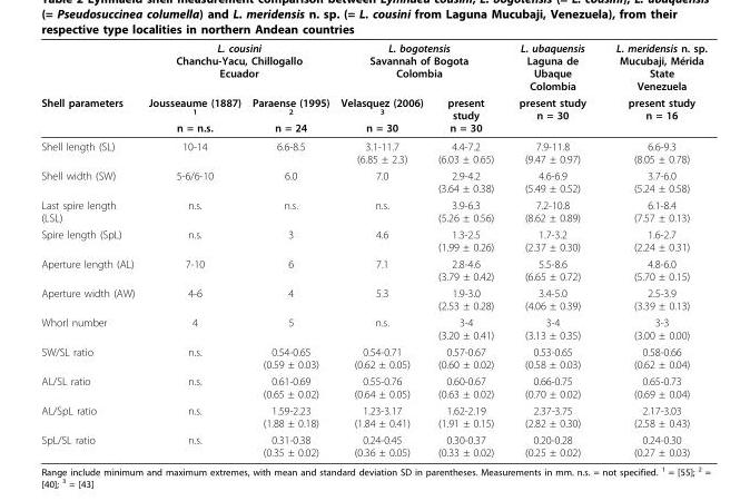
<table><thead><tr><td rowspan="2">Shell parameters</td><td colspan="2">L. cousini Chanchu-Yacu, Chillogallo Ecuador</td><td colspan="2">L. bogotensis Savannah of Bogota Colombia</td><td rowspan="2">L. ubaquensis Laguna de Ubaque Colombia present study n = 30</td><td rowspan="2">L. meridensis n. sp. Mucubaji, Mérida State Venezuela present study n = 16</td></tr><tr><td>Jousseaume (1887) <sup>1</sup> n = n.s.</td><td>Paraense (1995) <sup>2</sup> n = 24</td><td>Velasquez (2006) <sup>3</sup> n = 30</td><td>present study n = 30</td></tr></thead><tbody><tr><td>Shell length (SL)</td><td>10-14</td><td>6.6-8.5</td><td>3.1-11.7 (6.85 ± 2.3)</td><td>4.4-7.2 (6.03 ± 0.65)</td><td>7.9-11.8 (9.47 ± 0.97)</td><td>6.6-9.3 (8.05 ± 0.78)</td></tr><tr><td>Shell width (SW)</td><td>5-6/6-10</td><td>6.0</td><td>7.0</td><td>2.9-4.2 (3.64 ± 0.38)</td><td>4.6-6.9 (5.49 ± 0.52)</td><td>3.7-6.0 (5.24 ± 0.58)</td></tr><tr><td>Last spire length (LSL)</td><td>n.s.</td><td>n.s.</td><td>n.s.</td><td>3.9-6.3 (5.26 ± 0.56)</td><td>7.2-10.8 (8.62 ± 0.89)</td><td>6.1-8.4 (7.57 ± 0.13)</td></tr><tr><td>Spire length (SpL)</td><td>n.s.</td><td>3</td><td>4.6</td><td>1.3-2.5 (1.99 ± 0.26)</td><td>1.7-3.2 (2.37 ± 0.30)</td><td>1.6-2.7 (2.24 ± 0.31)</td></tr><tr><td>Aperture length (AL)</td><td>7-10</td><td>6</td><td>7.1</td><td>2.8-4.6 (3.79 ± 0.42)</td><td>5.5-8.6 (6.65 ± 0.72)</td><td>4.8-6.0 (5.70 ± 0.15)</td></tr><tr><td>Aperture width (AW)</td><td>4-6</td><td>4</td><td>5.3</td><td>1.9-3.0 (2.53 ± 0.28)</td><td>3.4-5.0 (4.06 ± 0.39)</td><td>2.5-3.9 (3.39 ± 0.13)</td></tr><tr><td>Whorl number</td><td>4</td><td>5</td><td>n.s.</td><td>3-4 (3.20 ± 0.41)</td><td>3-4 (3.13 ± 0.35)</td><td>3-3 (3.00 ± 0.00)</td></tr><tr><td>SW/SL ratio</td><td>n.s.</td><td>0.54-0.65 (0.59 ± 0.03)</td><td>0.54-0.71 (0.62 ± 0.05)</td><td>0.57-0.67 (0.60 ± 0.02)</td><td>0.53-0.65 (0.58 ± 0.03)</td><td>0.58-0.66 (0.62 ± 0.04)</td></tr><tr><td>AL/SL ratio</td><td>n.s.</td><td>0.61-0.69 (0.65 ± 0.02)</td><td>0.55-0.76 (0.64 ± 0.05)</td><td>0.60-0.67 (0.63 ± 0.02)</td><td>0.66-0.75 (0.70 ± 0.02)</td><td>0.65-0.73 (0.69 ± 0.04)</td></tr><tr><td>AL/SpL ratio</td><td>n.s.</td><td>1.59-2.23 (1.88 ± 0.18)</td><td>1.23-3.17 (1.84 ± 0.41)</td><td>1.62-2.19 (1.91 ± 0.15)</td><td>2.37-3.75 (2.82 ± 0.30)</td><td>2.17-3.03 (2.58 ± 0.43)</td></tr><tr><td>SpL/SL ratio</td><td>n.s.</td><td>0.31-0.38 (0.35 ± 0.02)</td><td>0.24-0.45 (0.36 ± 0.05)</td><td>0.30-0.37 (0.33 ± 0.02)</td><td>0.20-0.28 (0.25 ± 0.02)</td><td>0.24-0.30 (0.27 ± 0.03)</td></tr></tbody></table>